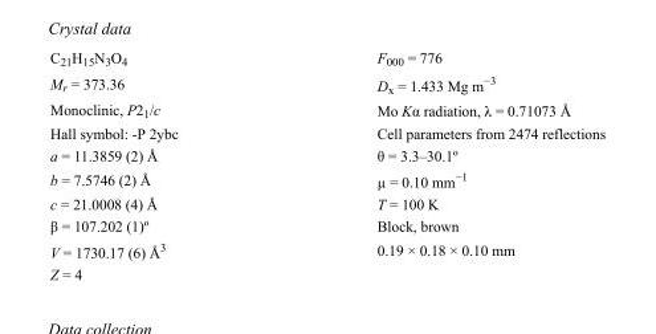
<table><tbody><tr><td>C<sub>21</sub>H<sub>15</sub>N<sub>3</sub>O<sub>4</sub></td><td>F000 = 776</td></tr><tr><td>M<sub>r</sub> = 373.36</td><td>D<sub>x</sub> = 1.433 Mg m<sup>−3</sup></td></tr><tr><td>Monoclinic, P2<sub>1</sub>/c</td><td>Mo Kα radiation, λ = 0.71073 Å</td></tr><tr><td>Hall symbol: -P 2ybc</td><td>Cell parameters from 2474 reflections</td></tr><tr><td>a = 11.3859 (2) Å</td><td>θ = 3.3–30.1º</td></tr><tr><td>b = 7.5746 (2) Å</td><td>µ = 0.10 mm<sup>−1</sup></td></tr><tr><td>c = 21.0008 (4) Å</td><td>T = 100 K</td></tr><tr><td>β = 107.202 (1)º</td><td>Block, brown</td></tr><tr><td>V = 1730.17 (6) Å<sup>3</sup></td><td>0.19 × 0.18 × 0.10 mm</td></tr><tr><td>Z = 4</td><td></td></tr></tbody></table>